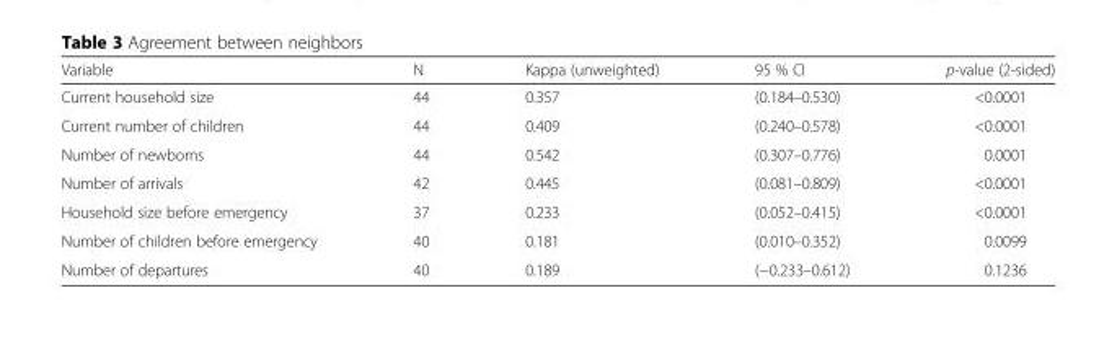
<table><thead><tr><td>Variable</td><td>N</td><td>Kappa (unweighted)</td><td>95 % CI</td><td>p-value (2-sided)</td></tr></thead><tbody><tr><td>Current household size</td><td>44</td><td>0.357</td><td>(0.184–0.530)</td><td>&lt;0.0001</td></tr><tr><td>Current number of children</td><td>44</td><td>0.409</td><td>(0.240–0.578)</td><td>&lt;0.0001</td></tr><tr><td>Number of newborns</td><td>44</td><td>0.542</td><td>(0.307–0.776)</td><td>0.0001</td></tr><tr><td>Number of arrivals</td><td>42</td><td>0.445</td><td>(0.081–0.809)</td><td>&lt;0.0001</td></tr><tr><td>Household size before emergency</td><td>37</td><td>0.233</td><td>(0.052–0.415)</td><td>&lt;0.0001</td></tr><tr><td>Number of children before emergency</td><td>40</td><td>0.181</td><td>(0.010–0.352)</td><td>0.0099</td></tr><tr><td>Number of departures</td><td>40</td><td>0.189</td><td>(−0.233–0.612)</td><td>0.1236</td></tr></tbody></table>